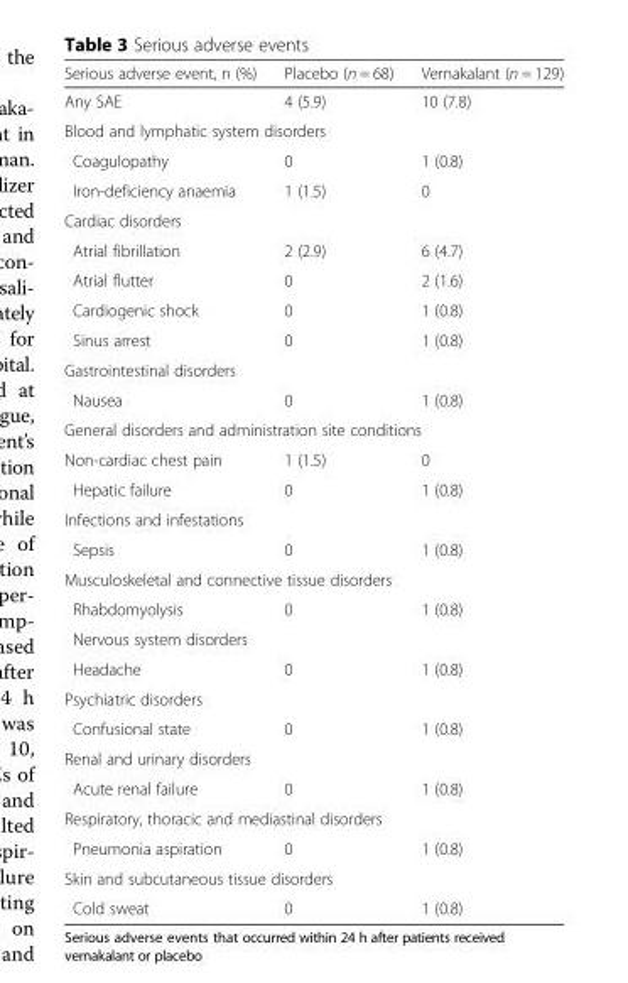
<table><thead><tr><td>Serious adverse event, n (%)</td><td>Placebo (n = 68)</td><td>Vernakalant (n = 129)</td></tr></thead><tbody><tr><td>Any SAE</td><td>4 (5.9)</td><td>10 (7.8)</td></tr><tr><td colspan="3">Blood and lymphatic system disorders</td></tr><tr><td>Coagulopathy</td><td>0</td><td>1 (0.8)</td></tr><tr><td>Iron-deficiency anaemia</td><td>1 (1.5)</td><td>0</td></tr><tr><td colspan="3">Cardiac disorders</td></tr><tr><td>Atrial fibrillation</td><td>2 (2.9)</td><td>6 (4.7)</td></tr><tr><td>Atrial flutter</td><td>0</td><td>2 (1.6)</td></tr><tr><td>Cardiogenic shock</td><td>0</td><td>1 (0.8)</td></tr><tr><td>Sinus arrest</td><td>0</td><td>1 (0.8)</td></tr><tr><td colspan="3">Gastrointestinal disorders</td></tr><tr><td>Nausea</td><td>0</td><td>1 (0.8)</td></tr><tr><td colspan="3">General disorders and administration site conditions</td></tr><tr><td>Non-cardiac chest pain</td><td>1 (1.5)</td><td>0</td></tr><tr><td>Hepatic failure</td><td>0</td><td>1 (0.8)</td></tr><tr><td colspan="3">Infections and infestations</td></tr><tr><td>Sepsis</td><td>0</td><td>1 (0.8)</td></tr><tr><td colspan="3">Musculoskeletal and connective tissue disorders</td></tr><tr><td>Rhabdomyolysis</td><td>0</td><td>1 (0.8)</td></tr><tr><td colspan="3">Nervous system disorders</td></tr><tr><td>Headache</td><td>0</td><td>1 (0.8)</td></tr><tr><td colspan="3">Psychiatric disorders</td></tr><tr><td>Confusional state</td><td>0</td><td>1 (0.8)</td></tr><tr><td colspan="3">Renal and urinary disorders</td></tr><tr><td>Acute renal failure</td><td>0</td><td>1 (0.8)</td></tr><tr><td colspan="3">Respiratory, thoracic and mediastinal disorders</td></tr><tr><td>Pneumonia aspiration</td><td>0</td><td>1 (0.8)</td></tr><tr><td colspan="3">Skin and subcutaneous tissue disorders</td></tr><tr><td>Cold sweat</td><td>0</td><td>1 (0.8)</td></tr></tbody></table>